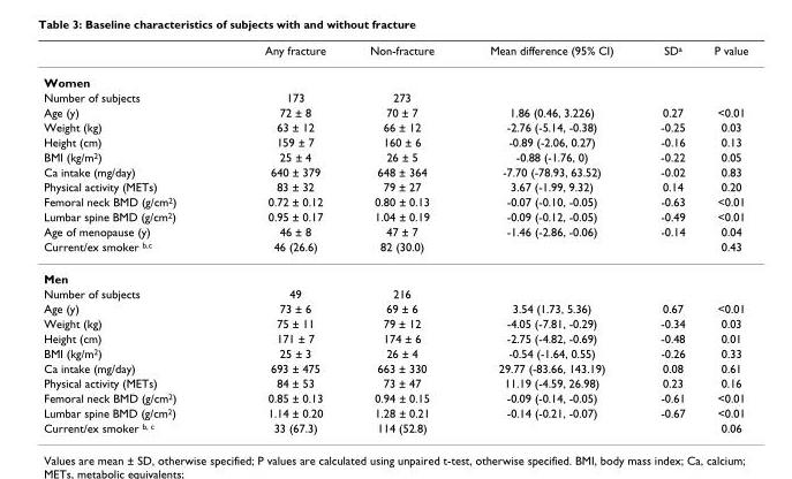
<table><thead><tr><td></td><td>Any fracture</td><td>Non-fracture</td><td>Mean difference (95% CI)</td><td>SD<sup>a</sup></td><td>P value</td></tr></thead><tbody><tr><td colspan="6">Women</td></tr><tr><td>Number of subjects</td><td>173</td><td>273</td><td></td><td></td><td></td></tr><tr><td>Age (y)</td><td>72 ± 8</td><td>70 ± 7</td><td>1.86 (0.46, 3.226)</td><td>0.27</td><td>&lt;0.01</td></tr><tr><td>Weight (kg)</td><td>63 ± 12</td><td>66 ± 12</td><td>-2.76 (-5.14, -0.38)</td><td>-0.25</td><td>0.03</td></tr><tr><td>Height (cm)</td><td>159 ± 7</td><td>160 ± 6</td><td>-0.89 (-2.06, 0.27)</td><td>-0.16</td><td>0.13</td></tr><tr><td>BMI (kg/m<sup>2</sup>)</td><td>25 ± 4</td><td>26 ± 5</td><td>-0.88 (-1.76, 0)</td><td>-0.22</td><td>0.05</td></tr><tr><td>Ca intake (mg/day)</td><td>640 ± 379</td><td>648 ± 364</td><td>-7.70 (-78.93, 63.52)</td><td>-0.02</td><td>0.83</td></tr><tr><td>Physical activity (METs)</td><td>83 ± 32</td><td>79 ± 27</td><td>3.67 (-1.99, 9.32)</td><td>0.14</td><td>0.20</td></tr><tr><td>Femoral neck BMD (g/cm<sup>2</sup>)</td><td>0.72 ± 0.12</td><td>0.80 ± 0.13</td><td>-0.07 (-0.10, -0.05)</td><td>-0.63</td><td>&lt;0.01</td></tr><tr><td>Lumbar spine BMD (g/cm<sup>2</sup>)</td><td>0.95 ± 0.17</td><td>1.04 ± 0.19</td><td>-0.09 (-0.12, -0.05)</td><td>-0.49</td><td>&lt;0.01</td></tr><tr><td>Age of menopause (y)</td><td>46 ± 8</td><td>47 ± 7</td><td>-1.46 (-2.86, -0.06)</td><td>-0.14</td><td>0.04</td></tr><tr><td>Current/ex smoker <sup>b,c</sup></td><td>46 (26.6)</td><td>82 (30.0)</td><td></td><td></td><td>0.43</td></tr><tr><td colspan="6">Men</td></tr><tr><td>Number of subjects</td><td>49</td><td>216</td><td></td><td></td><td></td></tr><tr><td>Age (y)</td><td>73 ± 6</td><td>69 ± 6</td><td>3.54 (1.73, 5.36)</td><td>0.67</td><td>&lt;0.01</td></tr><tr><td>Weight (kg)</td><td>75 ± 11</td><td>79 ± 12</td><td>-4.05 (-7.81, -0.29)</td><td>-0.34</td><td>0.03</td></tr><tr><td>Height (cm)</td><td>171 ± 7</td><td>174 ± 6</td><td>-2.75 (-4.82, -0.69)</td><td>-0.48</td><td>0.01</td></tr><tr><td>BMI (kg/m<sup>2</sup>)</td><td>25 ± 3</td><td>26 ± 4</td><td>-0.54 (-1.64, 0.55)</td><td>-0.26</td><td>0.33</td></tr><tr><td>Ca intake (mg/day)</td><td>693 ± 475</td><td>663 ± 330</td><td>29.77 (-83.66, 143.19)</td><td>0.08</td><td>0.61</td></tr><tr><td>Physical activity (METs)</td><td>84 ± 53</td><td>73 ± 47</td><td>11.19 (-4.59, 26.98)</td><td>0.23</td><td>0.16</td></tr><tr><td>Femoral neck BMD (g/cm<sup>2</sup>)</td><td>0.85 ± 0.13</td><td>0.94 ± 0.15</td><td>-0.09 (-0.14, -0.05)</td><td>-0.61</td><td>&lt;0.01</td></tr><tr><td>Lumbar spine BMD (g/cm<sup>2</sup>)</td><td>1.14 ± 0.20</td><td>1.28 ± 0.21</td><td>-0.14 (-0.21, -0.07)</td><td>-0.67</td><td>&lt;0.01</td></tr><tr><td>Current/ex smoker <sup>b, c</sup></td><td>33 (67.3)</td><td>114 (52.8)</td><td></td><td></td><td>0.06</td></tr></tbody></table>